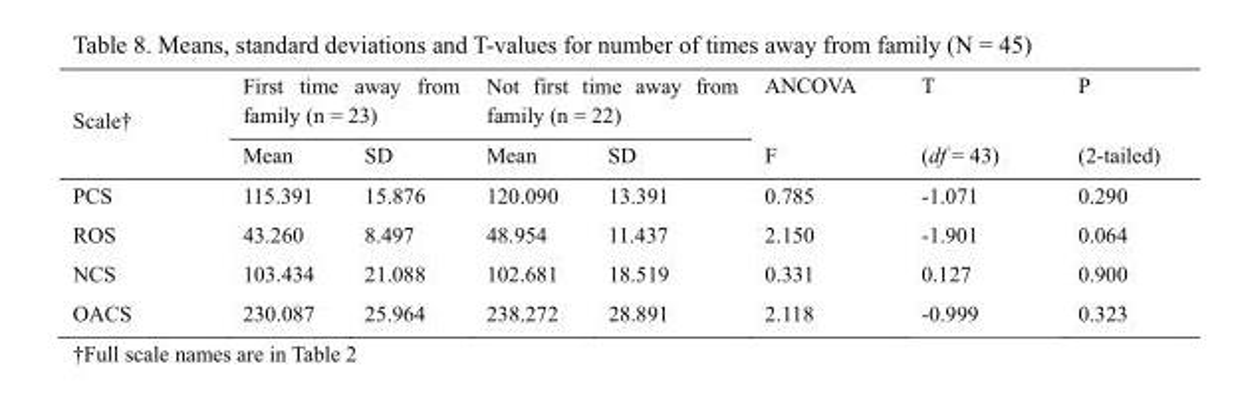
<table><thead><tr><td rowspan="2">Scale†</td><td colspan="2">First time away from family (n = 23)</td><td colspan="2">Not first time away from family (n = 22)</td><td rowspan="2">ANCOVA F</td><td rowspan="2">T (df = 43)</td><td rowspan="2">P (2-tailed)</td></tr><tr><td>Mean</td><td>SD</td><td>Mean</td><td>SD</td></tr></thead><tbody><tr><td>PCS</td><td>115.391</td><td>15.876</td><td>120.090</td><td>13.391</td><td>0.785</td><td>-1.071</td><td>0.290</td></tr><tr><td>ROS</td><td>43.260</td><td>8.497</td><td>48.954</td><td>11.437</td><td>2.150</td><td>-1.901</td><td>0.064</td></tr><tr><td>NCS</td><td>103.434</td><td>21.088</td><td>102.681</td><td>18.519</td><td>0.331</td><td>0.127</td><td>0.900</td></tr><tr><td>OACS</td><td>230.087</td><td>25.964</td><td>238.272</td><td>28.891</td><td>2.118</td><td>-0.999</td><td>0.323</td></tr></tbody></table>